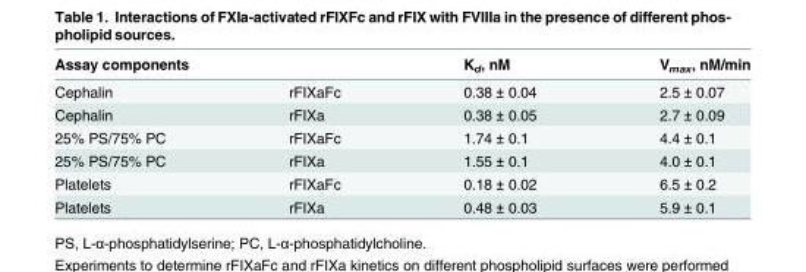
<table><thead><tr><td colspan="2">Assay components</td><td rowspan="2">K<sub>d</sub>, nM 0.38 ± 0.04</td><td rowspan="2">V<sub>max</sub>, nM/min 2.5 ± 0.07</td></tr><tr><td>Cephalin</td><td>rFIXaFc</td></tr></thead><tbody><tr><td>Cephalin</td><td>rFIXa</td><td>0.38 ± 0.05</td><td>2.7 ± 0.09</td></tr><tr><td>25% PS/75% PC</td><td>rFIXaFc</td><td>1.74 ± 0.1</td><td>4.4 ± 0.1</td></tr><tr><td>25% PS/75% PC</td><td>rFIXa</td><td>1.55 ± 0.1</td><td>4.0 ± 0.1</td></tr><tr><td>Platelets</td><td>rFIXaFc</td><td>0.18 ± 0.02</td><td>6.5 ± 0.2</td></tr><tr><td>Platelets</td><td>rFIXa</td><td>0.48 ± 0.03</td><td>5.9 ± 0.1</td></tr></tbody></table>